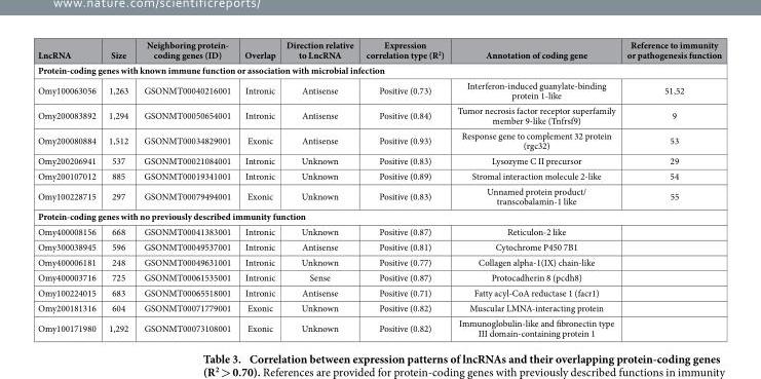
<table><thead><tr><td>LncRNA</td><td>Size</td><td>Neighboring protein- coding genes (ID)</td><td>Overlap</td><td>Direction relative to LncRNA</td><td>Expression correlation type (R<sup>2</sup>)</td><td>Annotation of coding gene</td><td>Reference to immunity or pathogenesis function</td></tr></thead><tbody><tr><td colspan="8">Protein-coding genes with known immune function or association with microbial infection</td></tr><tr><td>Omy100063056</td><td>1,263</td><td>GSONMT00040216001</td><td>Intronic</td><td>Antisense</td><td>Positive (0.73)</td><td>Interferon-induced guanylate-binding protein 1-like</td><td>51,52</td></tr><tr><td>Omy200083892</td><td>1,294</td><td>GSONMT00050654001</td><td>Intronic</td><td>Antisense</td><td>Positive (0.84)</td><td>Tumor necrosis factor receptor superfamily member 9-like (Tnfrsf9)</td><td>9</td></tr><tr><td>Omy200080884</td><td>1,512</td><td>GSONMT00034829001</td><td>Exonic</td><td>Antisense</td><td>Positive (0.93)</td><td>Response gene to complement 32 protein (rgc32)</td><td>53</td></tr><tr><td>Omy200206941</td><td>537</td><td>GSONMT00021084001</td><td>Intronic</td><td>Unknown</td><td>Positive (0.83)</td><td>Lysozyme C II precursor</td><td>29</td></tr><tr><td>Omy200107012</td><td>885</td><td>GSONMT00019341001</td><td>Intronic</td><td>Unknown</td><td>Positive (0.89)</td><td>Stromal interaction molecule 2-like</td><td>54</td></tr><tr><td>Omy100228715</td><td>297</td><td>GSONMT00079494001</td><td>Exonic</td><td>Unknown</td><td>Positive (0.83)</td><td>Unnamed protein product/ transcobalamin-1 like</td><td>55</td></tr><tr><td colspan="8">Protein-coding genes with no previously described immunity function</td></tr><tr><td>Omy400008156</td><td>668</td><td>GSONMT00041383001</td><td>Intronic</td><td>Unknown</td><td>Positive (0.87)</td><td>Reticulon-2 like</td><td></td></tr><tr><td>Omy300038945</td><td>596</td><td>GSONMT00049537001</td><td>Intronic</td><td>Antisense</td><td>Positive (0.81)</td><td>Cytochrome P450 7B1</td><td></td></tr><tr><td>Omy400006181</td><td>248</td><td>GSONMT00049631001</td><td>Intronic</td><td>Unknown</td><td>Positive (0.77)</td><td>Collagen alpha-1(IX) chain-like</td><td></td></tr><tr><td>Omy400003716</td><td>725</td><td>GSONMT00061535001</td><td>Intronic</td><td>Sense</td><td>Positive (0.87)</td><td>Protocadherin 8 (pcdh8)</td><td></td></tr><tr><td>Omy100224015</td><td>683</td><td>GSONMT00065518001</td><td>Intronic</td><td>Antisense</td><td>Positive (0.71)</td><td>Fatty acyl-CoA reductase 1 (facr1)</td><td></td></tr><tr><td>Omy200181316</td><td>604</td><td>GSONMT00071779001</td><td>Exonic</td><td>Unknown</td><td>Positive (0.82)</td><td>Muscular LMNA-interacting protein</td><td></td></tr><tr><td>Omy100171980</td><td>1,292</td><td>GSONMT00073108001</td><td>Exonic</td><td>Unknown</td><td>Positive (0.82)</td><td>Immunoglobulin-like and fibronectin type III domain-containing protein 1</td><td></td></tr></tbody></table>